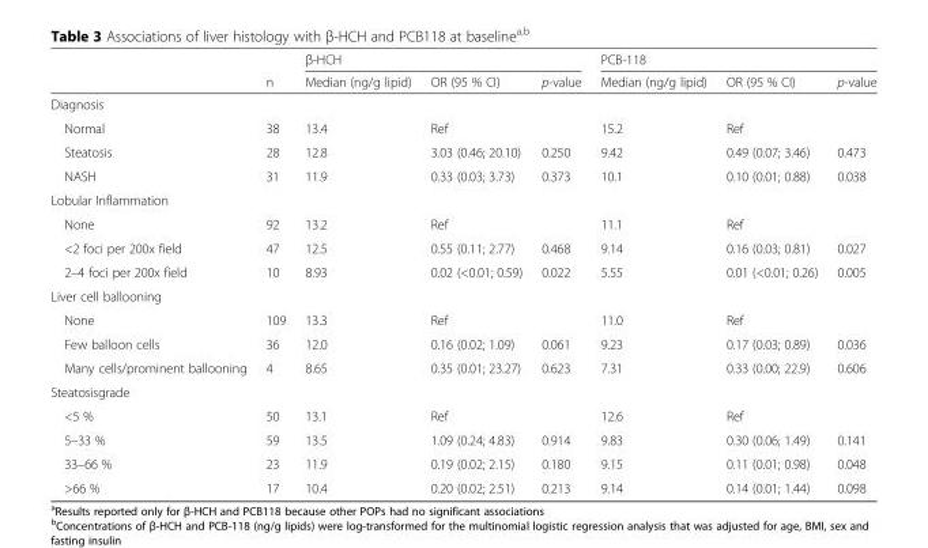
<table><thead><tr><td rowspan="2"></td><td rowspan="2">n</td><td colspan="3">β-HCH</td><td colspan="3">PCB-118</td></tr><tr><td>Median (ng/g lipid)</td><td>OR (95 % CI)</td><td>p-value</td><td>Median (ng/g lipid)</td><td>OR (95 % CI)</td><td>p-value</td></tr></thead><tbody><tr><td colspan="8">Diagnosis</td></tr><tr><td>Normal</td><td>38</td><td>13.4</td><td>Ref</td><td></td><td>15.2</td><td>Ref</td><td></td></tr><tr><td>Steatosis</td><td>28</td><td>12.8</td><td>3.03 (0.46; 20.10)</td><td>0.250</td><td>9.42</td><td>0.49 (0.07; 3.46)</td><td>0.473</td></tr><tr><td>NASH</td><td>31</td><td>11.9</td><td>0.33 (0.03; 3.73)</td><td>0.373</td><td>10.1</td><td>0.10 (0.01; 0.88)</td><td>0.038</td></tr><tr><td colspan="8">Lobular Inflammation</td></tr><tr><td>None</td><td>92</td><td>13.2</td><td>Ref</td><td></td><td>11.1</td><td>Ref</td><td></td></tr><tr><td>&lt;2 foci per 200x field</td><td>47</td><td>12.5</td><td>0.55 (0.11; 2.77)</td><td>0.468</td><td>9.14</td><td>0.16 (0.03; 0.81)</td><td>0.027</td></tr><tr><td>2–4 foci per 200x field</td><td>10</td><td>8.93</td><td>0.02 (&lt;0.01; 0.59)</td><td>0.022</td><td>5.55</td><td>0.01 (&lt;0.01; 0.26)</td><td>0.005</td></tr><tr><td colspan="8">Liver cell ballooning</td></tr><tr><td>None</td><td>109</td><td>13.3</td><td>Ref</td><td></td><td>11.0</td><td>Ref</td><td></td></tr><tr><td>Few balloon cells</td><td>36</td><td>12.0</td><td>0.16 (0.02; 1.09)</td><td>0.061</td><td>9.23</td><td>0.17 (0.03; 0.89)</td><td>0.036</td></tr><tr><td>Many cells/prominent ballooning</td><td>4</td><td>8.65</td><td>0.35 (0.01; 23.27)</td><td>0.623</td><td>7.31</td><td>0.33 (0.00; 22.9)</td><td>0.606</td></tr><tr><td colspan="8">Steatosisgrade</td></tr><tr><td>&lt;5 %</td><td>50</td><td>13.1</td><td>Ref</td><td></td><td>12.6</td><td>Ref</td><td></td></tr><tr><td>5–33 %</td><td>59</td><td>13.5</td><td>1.09 (0.24; 4.83)</td><td>0.914</td><td>9.83</td><td>0.30 (0.06; 1.49)</td><td>0.141</td></tr><tr><td>33–66 %</td><td>23</td><td>11.9</td><td>0.19 (0.02; 2.15)</td><td>0.180</td><td>9.15</td><td>0.11 (0.01; 0.98)</td><td>0.048</td></tr><tr><td>&gt;66 %</td><td>17</td><td>10.4</td><td>0.20 (0.02; 2.51)</td><td>0.213</td><td>9.14</td><td>0.14 (0.01; 1.44)</td><td>0.098</td></tr></tbody></table>